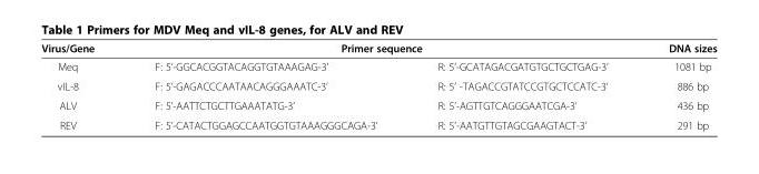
<table><thead><tr><td rowspan="2">Virus/Gene Meq</td><td colspan="2">Primer sequence</td><td rowspan="2">DNA sizes 1081 bp</td></tr><tr><td>F: 5’-GGCACGGTACAGGTGTAAAGAG-3’</td><td>R: 5’-GCATAGACGATGTGCTGCTGAG-3’</td></tr></thead><tbody><tr><td>vIL-8</td><td>F: 5’-GAGACCCAATAACAGGGAAATC-3’</td><td>R: 5’ -TAGACCGTATCCGTGCTCCATC-3’</td><td>886 bp</td></tr><tr><td>ALV</td><td>F: 5’-AATTCTGCTTGAAATATG-3’</td><td>R: 5’-AGTTGTCAGGGAATCGA-3’</td><td>436 bp</td></tr><tr><td>REV</td><td>F: 5’-CATACTGGAGCCAATGGTGTAAAGGGCAGA-3’</td><td>R: 5’-AATGTTGTAGCGAAGTACT-3’</td><td>291 bp</td></tr></tbody></table>